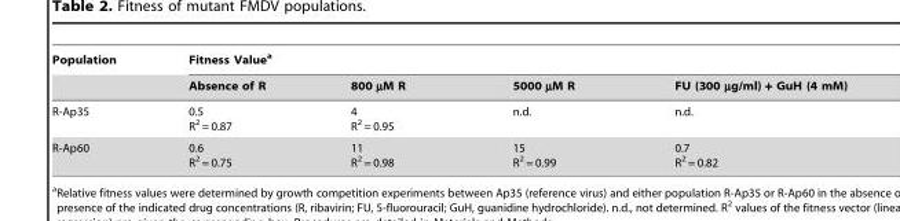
<table><thead><tr><td rowspan="2">Population</td><td colspan="4">Fitness Value<sup>a</sup></td></tr><tr><td>Absence of R</td><td>800 µM R</td><td>5000 µM R</td><td>FU (300 µg/ml) + GuH (4 mM)</td></tr></thead><tbody><tr><td>R-Ap35</td><td>0.5 R<sup>2</sup> = 0.87</td><td>4 R<sup>2</sup> = 0.95</td><td>n.d.</td><td>n.d.</td></tr><tr><td>R-Ap60</td><td>0.6 R<sup>2</sup> = 0.75</td><td>11 R<sup>2</sup> = 0.98</td><td>15 R<sup>2</sup> = 0.99</td><td>0.7 R<sup>2</sup> = 0.82</td></tr></tbody></table>